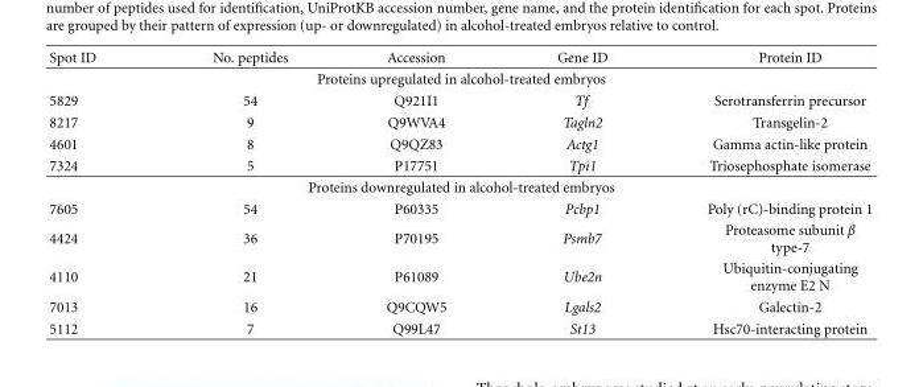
<table><thead><tr><td>Spot ID</td><td>No. peptides</td><td>Accession</td><td>Gene ID</td><td>Protein ID</td></tr></thead><tbody><tr><td colspan="5">Proteins upregulated in alcohol-treated embryos</td></tr><tr><td>5829</td><td>54</td><td>Q921I1</td><td>Tf</td><td>Serotransferrin precursor</td></tr><tr><td>8217</td><td>9</td><td>Q9WVA4</td><td>Tagln2</td><td>Transgelin-2</td></tr><tr><td>4601</td><td>8</td><td>Q9QZ83</td><td>Actg1</td><td>Gamma actin-like protein</td></tr><tr><td>7324</td><td>5</td><td>P17751</td><td>Tpi1</td><td>Triosephosphate isomerase</td></tr><tr><td colspan="5">Proteins downregulated in alcohol-treated embryos</td></tr><tr><td>7605</td><td>54</td><td>P60335</td><td>Pcbp1</td><td>Poly (rC)-binding protein 1</td></tr><tr><td>4424</td><td>36</td><td>P70195</td><td>Psmb7</td><td>Proteasome subunit β type-7</td></tr><tr><td>4110</td><td>21</td><td>P61089</td><td>Ube2n</td><td>Ubiquitin-conjugating enzyme E2 N</td></tr><tr><td>7013</td><td>16</td><td>Q9CQW5</td><td>Lgals2</td><td>Galectin-2</td></tr><tr><td>5112</td><td>7</td><td>Q99L47</td><td>St13</td><td>Hsc70-interacting protein</td></tr></tbody></table>